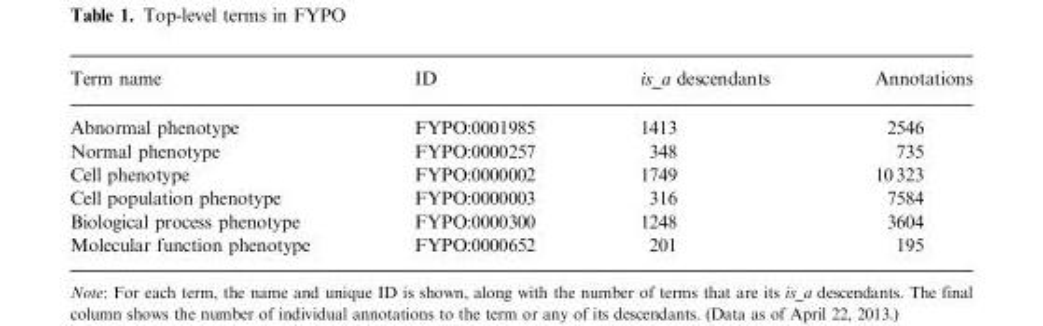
<table><thead><tr><td>Term name</td><td>ID</td><td>is_a descendants</td><td>Annotations</td></tr></thead><tbody><tr><td>Abnormal phenotype</td><td>FYPO:0001985</td><td>1413</td><td>2546</td></tr><tr><td>Normal phenotype</td><td>FYPO:0000257</td><td>348</td><td>735</td></tr><tr><td>Cell phenotype</td><td>FYPO:0000002</td><td>1749</td><td>10 323</td></tr><tr><td>Cell population phenotype</td><td>FYPO:0000003</td><td>316</td><td>7584</td></tr><tr><td>Biological process phenotype</td><td>FYPO:0000300</td><td>1248</td><td>3604</td></tr><tr><td>Molecular function phenotype</td><td>FYPO:0000652</td><td>201</td><td>195</td></tr></tbody></table>